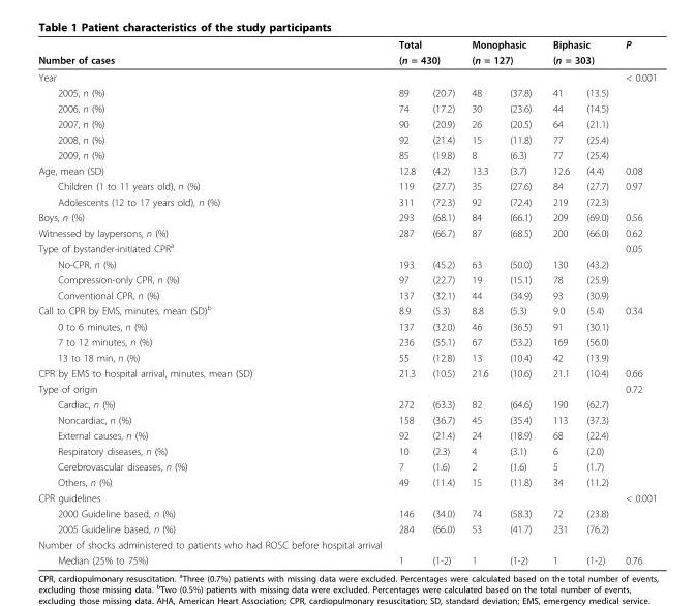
<table><thead><tr><td rowspan="3">Number of cases Year</td><td rowspan="2" colspan="2">Total (n = 430)</td><td rowspan="2" colspan="2">Monophasic (n = 127)</td><td rowspan="2" colspan="2">Biphasic (n = 303)</td><td rowspan="3">P &lt; 0.001</td></tr><tr></tr><tr><td></td><td></td><td></td><td></td><td></td><td></td></tr></thead><tbody><tr><td>2005, n (%)</td><td>89</td><td>(20.7)</td><td>48</td><td>(37.8)</td><td>41</td><td>(13.5)</td><td></td></tr><tr><td>2006, n (%)</td><td>74</td><td>(17.2)</td><td>30</td><td>(23.6)</td><td>44</td><td>(14.5)</td><td></td></tr><tr><td>2007, n (%)</td><td>90</td><td>(20.9)</td><td>26</td><td>(20.5)</td><td>64</td><td>(21.1)</td><td></td></tr><tr><td>2008, n (%)</td><td>92</td><td>(21.4)</td><td>15</td><td>(11.8)</td><td>77</td><td>(25.4)</td><td></td></tr><tr><td>2009, n (%)</td><td>85</td><td>(19.8)</td><td>8</td><td>(6.3)</td><td>77</td><td>(25.4)</td><td></td></tr><tr><td>Age, mean (SD)</td><td>12.8</td><td>(4.2)</td><td>13.3</td><td>(3.7)</td><td>12.6</td><td>(4.4)</td><td>0.08</td></tr><tr><td>Children (1 to 11 years old), n (%)</td><td>119</td><td>(27.7)</td><td>35</td><td>(27.6)</td><td>84</td><td>(27.7)</td><td>0.97</td></tr><tr><td>Adolescents (12 to 17 years old), n (%)</td><td>311</td><td>(72.3)</td><td>92</td><td>(72.4)</td><td>219</td><td>(72.3)</td><td></td></tr><tr><td>Boys, n (%)</td><td>293</td><td>(68.1)</td><td>84</td><td>(66.1)</td><td>209</td><td>(69.0)</td><td>0.56</td></tr><tr><td>Witnessed by laypersons, n (%)</td><td>287</td><td>(66.7)</td><td>87</td><td>(68.5)</td><td>200</td><td>(66.0)</td><td>0.62</td></tr><tr><td>Type of bystander-initiated CPR<sup>a</sup></td><td></td><td></td><td></td><td></td><td></td><td></td><td>0.05</td></tr><tr><td>No-CPR, n (%)</td><td>193</td><td>(45.2)</td><td>63</td><td>(50.0)</td><td>130</td><td>(43.2)</td><td></td></tr><tr><td>Compression-only CPR, n (%)</td><td>97</td><td>(22.7)</td><td>19</td><td>(15.1)</td><td>78</td><td>(25.9)</td><td></td></tr><tr><td>Conventional CPR, n (%)</td><td>137</td><td>(32.1)</td><td>44</td><td>(34.9)</td><td>93</td><td>(30.9)</td><td></td></tr><tr><td>Call to CPR by EMS, minutes, mean (SD)<sup>b</sup></td><td>8.9</td><td>(5.3)</td><td>8.8</td><td>(5.3)</td><td>9.0</td><td>(5.4)</td><td>0.34</td></tr><tr><td>0 to 6 minutes, n (%)</td><td>137</td><td>(32.0)</td><td>46</td><td>(36.5)</td><td>91</td><td>(30.1)</td><td></td></tr><tr><td>7 to 12 minutes, n (%)</td><td>236</td><td>(55.1)</td><td>67</td><td>(53.2)</td><td>169</td><td>(56.0)</td><td></td></tr><tr><td>13 to 18 min, n (%)</td><td>55</td><td>(12.8)</td><td>13</td><td>(10.4)</td><td>42</td><td>(13.9)</td><td></td></tr><tr><td>CPR by EMS to hospital arrival, minutes, mean (SD)</td><td>21.3</td><td>(10.5)</td><td>21.6</td><td>(10.6)</td><td>21.1</td><td>(10.4)</td><td>0.66</td></tr><tr><td>Type of origin</td><td></td><td></td><td></td><td></td><td></td><td></td><td>0.72</td></tr><tr><td>Cardiac, n (%)</td><td>272</td><td>(63.3)</td><td>82</td><td>(64.6)</td><td>190</td><td>(62.7)</td><td></td></tr><tr><td>Noncardiac, n (%)</td><td>158</td><td>(36.7)</td><td>45</td><td>(35.4)</td><td>113</td><td>(37.3)</td><td></td></tr><tr><td>External causes, n (%)</td><td>92</td><td>(21.4)</td><td>24</td><td>(18.9)</td><td>68</td><td>(22.4)</td><td></td></tr><tr><td>Respiratory diseases, n (%)</td><td>10</td><td>(2.3)</td><td>4</td><td>(3.1)</td><td>6</td><td>(2.0)</td><td></td></tr><tr><td>Cerebrovascular diseases, n (%)</td><td>7</td><td>(1.6)</td><td>2</td><td>(1.6)</td><td>5</td><td>(1.7)</td><td></td></tr><tr><td>Others, n (%)</td><td>49</td><td>(11.4)</td><td>15</td><td>(11.8)</td><td>34</td><td>(11.2)</td><td></td></tr><tr><td>CPR guidelines</td><td></td><td></td><td></td><td></td><td></td><td></td><td>&lt; 0.001</td></tr><tr><td>2000 Guideline based, n (%)</td><td>146</td><td>(34.0)</td><td>74</td><td>(58.3)</td><td>72</td><td>(23.8)</td><td></td></tr><tr><td>2005 Guideline based, n (%)</td><td>284</td><td>(66.0)</td><td>53</td><td>(41.7)</td><td>231</td><td>(76.2)</td><td></td></tr><tr><td colspan="8">Number of shocks administered to patients who had ROSC before hospital arrival</td></tr><tr><td>Median (25% to 75%)</td><td>1</td><td>(1-2)</td><td>1</td><td>(1-2)</td><td>1</td><td>(1-2)</td><td>0.76</td></tr></tbody></table>